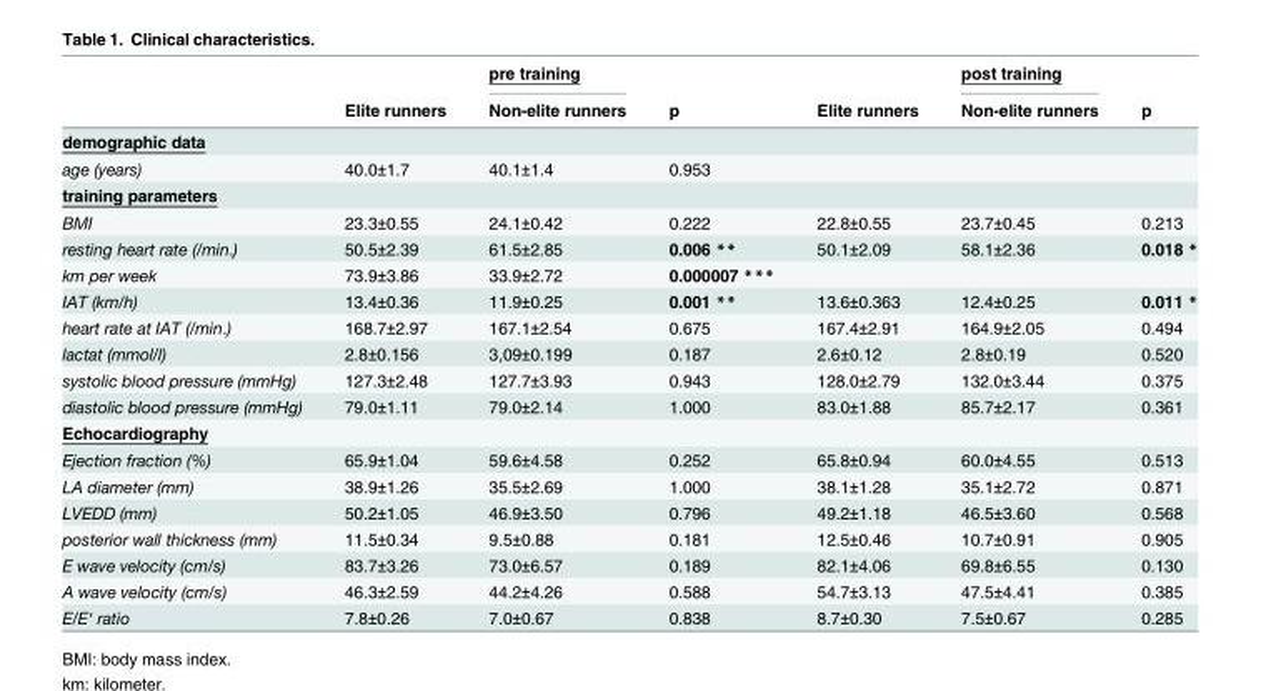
<table><thead><tr><td rowspan="2"></td><td rowspan="2">Elite runners</td><td rowspan="2">pre training Non-elite runners</td><td rowspan="2">p</td><td rowspan="2">Elite runners</td><td rowspan="2">post training Non-elite runners</td><td rowspan="2">p</td></tr><tr></tr></thead><tbody><tr><td colspan="7">demographic data</td></tr><tr><td>age (years)</td><td>40.0±1.7</td><td>40.1±1.4</td><td>0.953</td><td></td><td></td><td></td></tr><tr><td colspan="7">training parameters</td></tr><tr><td>BMI</td><td>23.3±0.55</td><td>24.1±0.42</td><td>0.222</td><td>22.8±0.55</td><td>23.7±0.45</td><td>0.213</td></tr><tr><td>resting heart rate (/min.)</td><td>50.5±2.39</td><td>61.5±2.85</td><td>0.006 **</td><td>50.1±2.09</td><td>58.1±2.36</td><td>0.018 *</td></tr><tr><td>km per week</td><td>73.9±3.86</td><td>33.9±2.72</td><td>0.000007 ***</td><td></td><td></td><td></td></tr><tr><td>IAT (km/h)</td><td>13.4±0.36</td><td>11.9±0.25</td><td>0.001 **</td><td>13.6±0.363</td><td>12.4±0.25</td><td>0.011 *</td></tr><tr><td>heart rate at IAT (/min.)</td><td>168.7±2.97</td><td>167.1±2.54</td><td>0.675</td><td>167.4±2.91</td><td>164.9±2.05</td><td>0.494</td></tr><tr><td>lactat (mmol/l)</td><td>2.8±0.156</td><td>3,09±0.199</td><td>0.187</td><td>2.6±0.12</td><td>2.8±0.19</td><td>0.520</td></tr><tr><td>systolic blood pressure (mmHg)</td><td>127.3±2.48</td><td>127.7±3.93</td><td>0.943</td><td>128.0±2.79</td><td>132.0±3.44</td><td>0.375</td></tr><tr><td>diastolic blood pressure (mmHg)</td><td>79.0±1.11</td><td>79.0±2.14</td><td>1.000</td><td>83.0±1.88</td><td>85.7±2.17</td><td>0.361</td></tr><tr><td colspan="7">Echocardiography</td></tr><tr><td>Ejection fraction (%)</td><td>65.9±1.04</td><td>59.6±4.58</td><td>0.252</td><td>65.8±0.94</td><td>60.0±4.55</td><td>0.513</td></tr><tr><td>LA diameter (mm)</td><td>38.9±1.26</td><td>35.5±2.69</td><td>1.000</td><td>38.1±1.28</td><td>35.1±2.72</td><td>0.871</td></tr><tr><td>LVEDD (mm)</td><td>50.2±1.05</td><td>46.9±3.50</td><td>0.796</td><td>49.2±1.18</td><td>46.5±3.60</td><td>0.568</td></tr><tr><td>posterior wall thickness (mm)</td><td>11.5±0.34</td><td>9.5±0.88</td><td>0.181</td><td>12.5±0.46</td><td>10.7±0.91</td><td>0.905</td></tr><tr><td>E wave velocity (cm/s)</td><td>83.7±3.26</td><td>73.0±6.57</td><td>0.189</td><td>82.1±4.06</td><td>69.8±6.55</td><td>0.130</td></tr><tr><td>A wave velocity (cm/s)</td><td>46.3±2.59</td><td>44.2±4.26</td><td>0.588</td><td>54.7±3.13</td><td>47.5±4.41</td><td>0.385</td></tr><tr><td>E/E‘ ratio</td><td>7.8±0.26</td><td>7.0±0.67</td><td>0.838</td><td>8.7±0.30</td><td>7.5±0.67</td><td>0.285</td></tr></tbody></table>